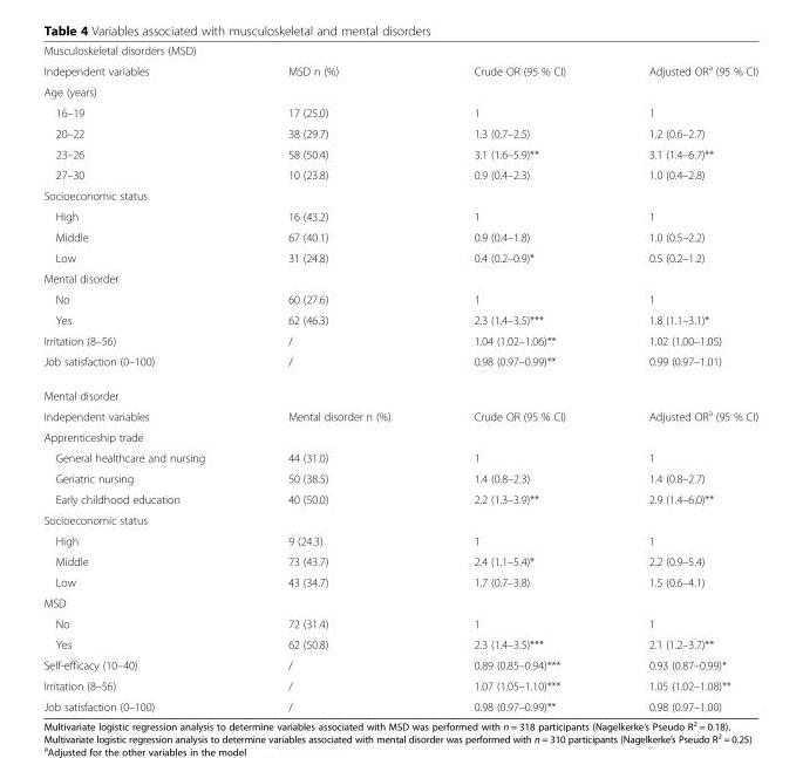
<table><tbody><tr><td colspan="4">Musculoskeletal disorders (MSD)</td></tr><tr><td>Independent variables</td><td>MSD n (%)</td><td>Crude OR (95 % CI)</td><td>Adjusted OR<sup>a</sup> (95 % CI)</td></tr><tr><td colspan="4">Age (years)</td></tr><tr><td>16–19</td><td>17 (25.0)</td><td>1</td><td>1</td></tr><tr><td>20–22</td><td>38 (29.7)</td><td>1.3 (0.7–2.5)</td><td>1.2 (0.6–2.7)</td></tr><tr><td>23–26</td><td>58 (50.4)</td><td>3.1 (1.6–5.9)**</td><td>3.1 (1.4–6.7)**</td></tr><tr><td>27–30</td><td>10 (23.8)</td><td>0.9 (0.4–2.3)</td><td>1.0 (0.4–2.8)</td></tr><tr><td colspan="4">Socioeconomic status</td></tr><tr><td>High</td><td>16 (43.2)</td><td>1</td><td>1</td></tr><tr><td>Middle</td><td>67 (40.1)</td><td>0.9 (0.4–1.8)</td><td>1.0 (0.5–2.2)</td></tr><tr><td>Low</td><td>31 (24.8)</td><td>0.4 (0.2–0.9)*</td><td>0.5 (0.2–1.2)</td></tr><tr><td colspan="4">Mental disorder</td></tr><tr><td>No</td><td>60 (27.6)</td><td>1</td><td>1</td></tr><tr><td>Yes</td><td>62 (46.3)</td><td>2.3 (1.4–3.5)***</td><td>1.8 (1.1–3.1)*</td></tr><tr><td>Irritation (8–56)</td><td>/</td><td>1.04 (1.02–1.06)**</td><td>1.02 (1.00–1.05)</td></tr><tr><td>Job satisfaction (0–100)</td><td>/</td><td>0.98 (0.97–0.99)**</td><td>0.99 (0.97–1.01)</td></tr><tr><td colspan="4">Mental disorder</td></tr><tr><td>Independent variables</td><td>Mental disorder n (%)</td><td>Crude OR (95 % CI)</td><td>Adjusted OR<sup>a</sup> (95 % CI)</td></tr><tr><td colspan="4">Apprenticeship trade</td></tr><tr><td>General healthcare and nursing</td><td>44 (31.0)</td><td>1</td><td>1</td></tr><tr><td>Geriatric nursing</td><td>50 (38.5)</td><td>1.4 (0.8–2.3)</td><td>1.4 (0.8–2.7)</td></tr><tr><td>Early childhood education</td><td>40 (50.0)</td><td>2.2 (1.3–3.9)**</td><td>2.9 (1.4–6.0)**</td></tr><tr><td colspan="4">Socioeconomic status</td></tr><tr><td>High</td><td>9 (24.3)</td><td>1</td><td>1</td></tr><tr><td>Middle</td><td>73 (43.7)</td><td>2.4 (1.1–5.4)*</td><td>2.2 (0.9–5.4)</td></tr><tr><td>Low</td><td>43 (34.7)</td><td>1.7 (0.7–3.8)</td><td>1.5 (0.6–4.1)</td></tr><tr><td colspan="4">MSD</td></tr><tr><td>No</td><td>72 (31.4)</td><td>1</td><td>1</td></tr><tr><td>Yes</td><td>62 (50.8)</td><td>2.3 (1.4–3.5)***</td><td>2.1 (1.2–3.7)**</td></tr><tr><td>Self-efficacy (10–40)</td><td>/</td><td>0.89 (0.85–0.94)***</td><td>0.93 (0.87–0.99)*</td></tr><tr><td>Irritation (8–56)</td><td>/</td><td>1.07 (1.05–1.10)***</td><td>1.05 (1.02–1.08)**</td></tr><tr><td>Job satisfaction (0–100)</td><td>/</td><td>0.98 (0.97–0.99)**</td><td>0.98 (0.97–1.00)</td></tr></tbody></table>